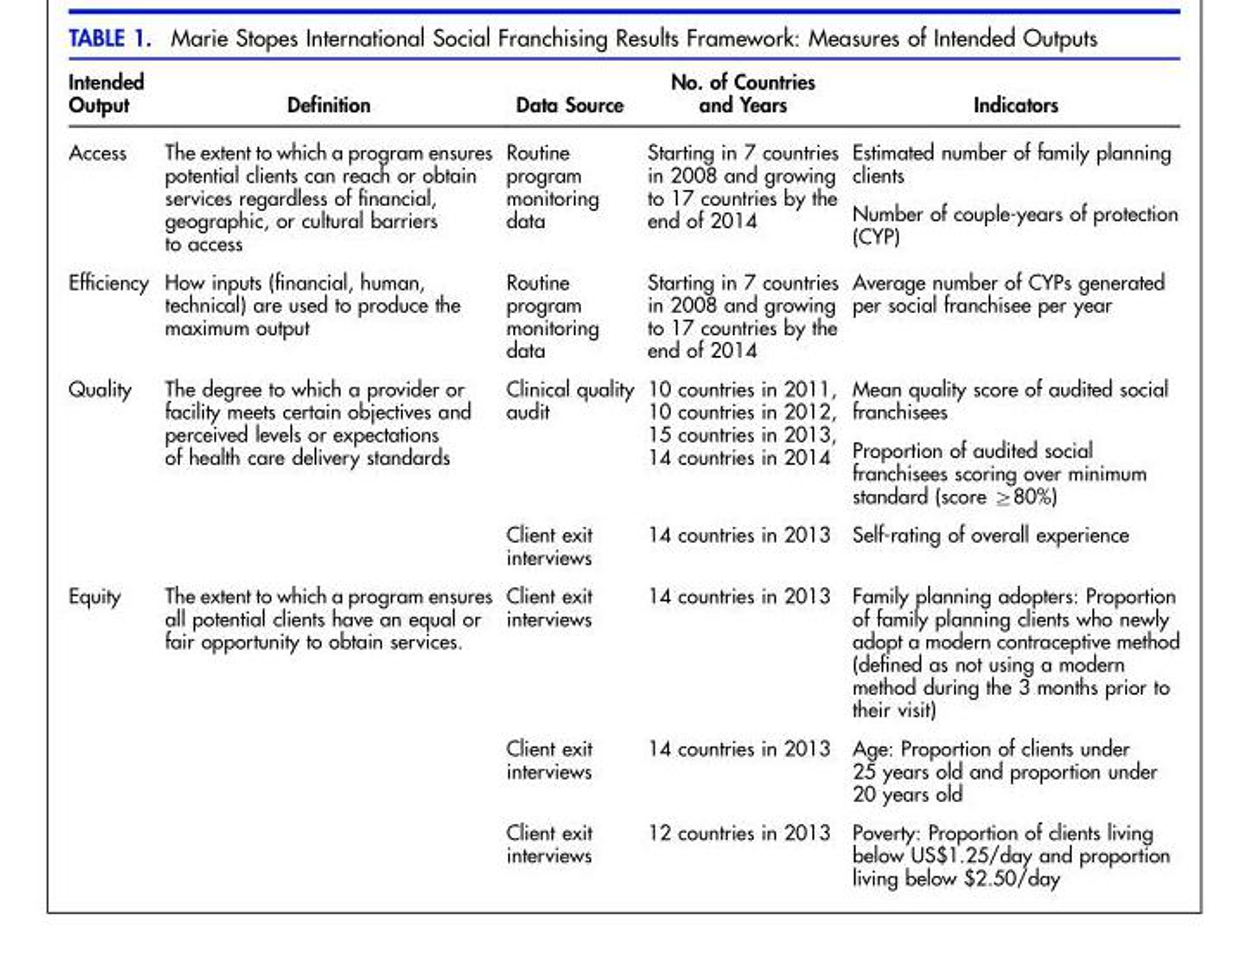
<table><thead><tr><td>Intended Output</td><td>Definition</td><td>Data Source</td><td>No. of Countries and Years</td><td>Indicators</td></tr></thead><tbody><tr><td rowspan="2">Access</td><td rowspan="2">The extent to which a program ensures potential clients can reach or obtain services regardless of financial, geographic, or cultural barriers to access</td><td rowspan="2">Routine program monitoring data</td><td rowspan="2">Starting in 7 countries in 2008 and growing to 17 countries by the end of 2014</td><td>Estimated number of family planning clients</td></tr><tr><td>Number of couple-years of protection (CYP)</td></tr><tr><td>Efficiency</td><td>How inputs (financial, human, technical) are used to produce the maximum output</td><td>Routine program monitoring data</td><td>Starting in 7 countries in 2008 and growing to 17 countries by the end of 2014</td><td>Average number of CYPs generated per social franchisee per year</td></tr><tr><td rowspan="3">Quality</td><td rowspan="3">The degree to which a provider or facility meets certain objectives and perceived levels or expectations of health care delivery standards</td><td>Clinical quality audit</td><td rowspan="2">10 countries in 2011, 10 countries in 2012, 15 countries in 2013, 14 countries in 2014</td><td>Mean quality score of audited social franchisees</td></tr><tr><td></td><td>Proportion of audited social franchisees scoring over minimum standard (score ≥80%)</td></tr><tr><td>Client exit interviews</td><td>14 countries in 2013</td><td>Self-rating of overall experience</td></tr><tr><td rowspan="3">Equity</td><td rowspan="3">The extent to which a program ensures all potential clients have an equal or fair opportunity to obtain services.</td><td>Client exit interviews</td><td>14 countries in 2013</td><td>Family planning adopters: Proportion of family planning clients who newly adopt a modern contraceptive method (defined as not using a modern method during the 3 months prior to their visit)</td></tr><tr><td>Client exit interviews</td><td>14 countries in 2013</td><td>Age: Proportion of clients under 25 years old and proportion under 20 years old</td></tr><tr><td>Client exit interviews</td><td>12 countries in 2013</td><td>Poverty: Proportion of clients living below US$1.25/day and proportion living below $2.50/day</td></tr></tbody></table>